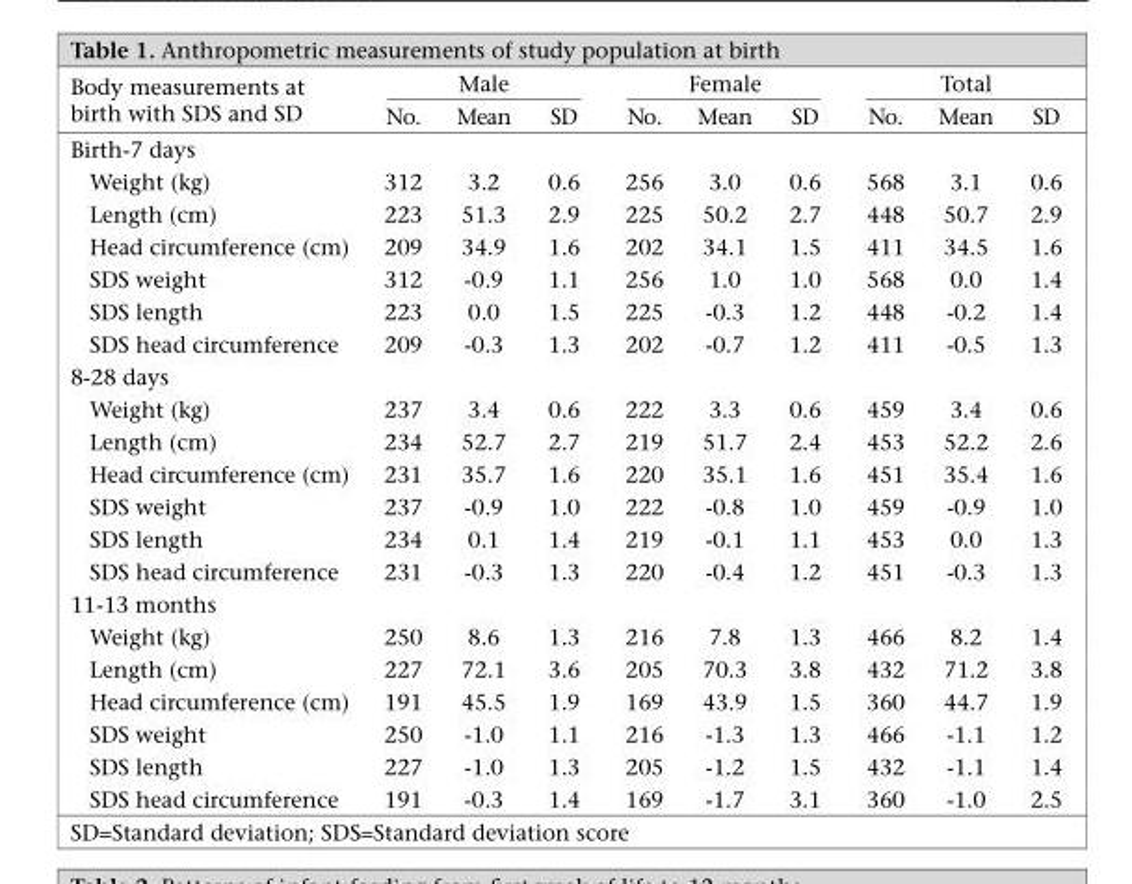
<table><thead><tr><td rowspan="2">Body measurements at birth with SDS and SD</td><td colspan="3">Male</td><td colspan="3">Female</td><td colspan="3">Total</td></tr><tr><td>No.</td><td>Mean</td><td>SD</td><td>No.</td><td>Mean</td><td>SD</td><td>No.</td><td>Mean</td><td>SD</td></tr></thead><tbody><tr><td colspan="10">Birth-7 days</td></tr><tr><td>Weight (kg)</td><td>312</td><td>3.2</td><td>0.6</td><td>256</td><td>3.0</td><td>0.6</td><td>568</td><td>3.1</td><td>0.6</td></tr><tr><td>Length (cm)</td><td>223</td><td>51.3</td><td>2.9</td><td>225</td><td>50.2</td><td>2.7</td><td>448</td><td>50.7</td><td>2.9</td></tr><tr><td>Head circumference (cm)</td><td>209</td><td>34.9</td><td>1.6</td><td>202</td><td>34.1</td><td>1.5</td><td>411</td><td>34.5</td><td>1.6</td></tr><tr><td>SDS weight</td><td>312</td><td>-0.9</td><td>1.1</td><td>256</td><td>1.0</td><td>1.0</td><td>568</td><td>0.0</td><td>1.4</td></tr><tr><td>SDS length</td><td>223</td><td>0.0</td><td>1.5</td><td>225</td><td>-0.3</td><td>1.2</td><td>448</td><td>-0.2</td><td>1.4</td></tr><tr><td>SDS head circumference</td><td>209</td><td>-0.3</td><td>1.3</td><td>202</td><td>-0.7</td><td>1.2</td><td>411</td><td>-0.5</td><td>1.3</td></tr><tr><td colspan="10">8-28 days</td></tr><tr><td>Weight (kg)</td><td>237</td><td>3.4</td><td>0.6</td><td>222</td><td>3.3</td><td>0.6</td><td>459</td><td>3.4</td><td>0.6</td></tr><tr><td>Length (cm)</td><td>234</td><td>52.7</td><td>2.7</td><td>219</td><td>51.7</td><td>2.4</td><td>453</td><td>52.2</td><td>2.6</td></tr><tr><td>Head circumference (cm)</td><td>231</td><td>35.7</td><td>1.6</td><td>220</td><td>35.1</td><td>1.6</td><td>451</td><td>35.4</td><td>1.6</td></tr><tr><td>SDS weight</td><td>237</td><td>-0.9</td><td>1.0</td><td>222</td><td>-0.8</td><td>1.0</td><td>459</td><td>-0.9</td><td>1.0</td></tr><tr><td>SDS length</td><td>234</td><td>0.1</td><td>1.4</td><td>219</td><td>-0.1</td><td>1.1</td><td>453</td><td>0.0</td><td>1.3</td></tr><tr><td>SDS head circumference</td><td>231</td><td>-0.3</td><td>1.3</td><td>220</td><td>-0.4</td><td>1.2</td><td>451</td><td>-0.3</td><td>1.3</td></tr><tr><td colspan="10">11-13 months</td></tr><tr><td>Weight (kg)</td><td>250</td><td>8.6</td><td>1.3</td><td>216</td><td>7.8</td><td>1.3</td><td>466</td><td>8.2</td><td>1.4</td></tr><tr><td>Length (cm)</td><td>227</td><td>72.1</td><td>3.6</td><td>205</td><td>70.3</td><td>3.8</td><td>432</td><td>71.2</td><td>3.8</td></tr><tr><td>Head circumference (cm)</td><td>191</td><td>45.5</td><td>1.9</td><td>169</td><td>43.9</td><td>1.5</td><td>360</td><td>44.7</td><td>1.9</td></tr><tr><td>SDS weight</td><td>250</td><td>-1.0</td><td>1.1</td><td>216</td><td>-1.3</td><td>1.3</td><td>466</td><td>-1.1</td><td>1.2</td></tr><tr><td>SDS length</td><td>227</td><td>-1.0</td><td>1.3</td><td>205</td><td>-1.2</td><td>1.5</td><td>432</td><td>-1.1</td><td>1.4</td></tr><tr><td>SDS head circumference</td><td>191</td><td>-0.3</td><td>1.4</td><td>169</td><td>-1.7</td><td>3.1</td><td>360</td><td>-1.0</td><td>2.5</td></tr></tbody></table>